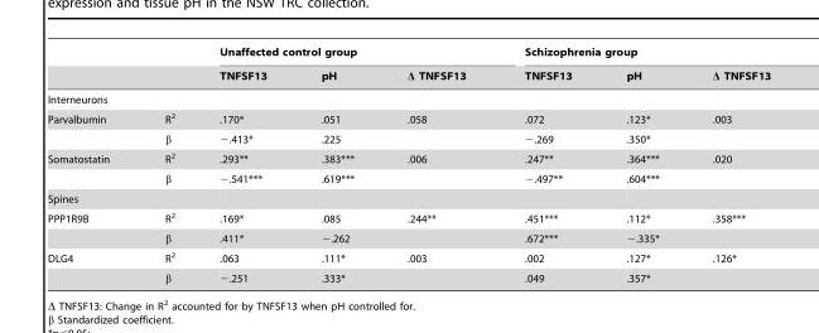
<table><thead><tr><td rowspan="2"></td><td rowspan="2"></td><td colspan="3">Unaffected control group</td><td colspan="3">Schizophrenia group</td></tr><tr><td>TNFSF13</td><td>pH</td><td>Δ TNFSF13</td><td>TNFSF13</td><td>pH</td><td>Δ TNFSF13</td></tr></thead><tbody><tr><td colspan="8">Interneurons</td></tr><tr><td rowspan="2">Parvalbumin</td><td>R<sup>2</sup></td><td>.170*</td><td>.051</td><td>.058</td><td>.072</td><td>.123*</td><td>.003</td></tr><tr><td>β</td><td>−.413*</td><td>.225</td><td></td><td>−.269</td><td>.350*</td><td></td></tr><tr><td rowspan="2">Somatostatin</td><td>R<sup>2</sup></td><td>.293**</td><td>.383***</td><td>.006</td><td>.247**</td><td>.364***</td><td>.020</td></tr><tr><td>β</td><td>−.541***</td><td>.619***</td><td></td><td>−.497**</td><td>.604***</td><td></td></tr><tr><td colspan="8">Spines</td></tr><tr><td rowspan="2">PPP1R9B</td><td>R<sup>2</sup></td><td>.169*</td><td>.085</td><td>.244**</td><td>.451***</td><td>.112*</td><td>.358***</td></tr><tr><td>β</td><td>.411*</td><td>−.262</td><td></td><td>.672***</td><td>−.335*</td><td></td></tr><tr><td rowspan="2">DLG4</td><td>R<sup>2</sup></td><td>.063</td><td>.111*</td><td>.003</td><td>.002</td><td>.127*</td><td>.126*</td></tr><tr><td>β</td><td>−.251</td><td>.333*</td><td></td><td>.049</td><td>.357*</td><td></td></tr></tbody></table>